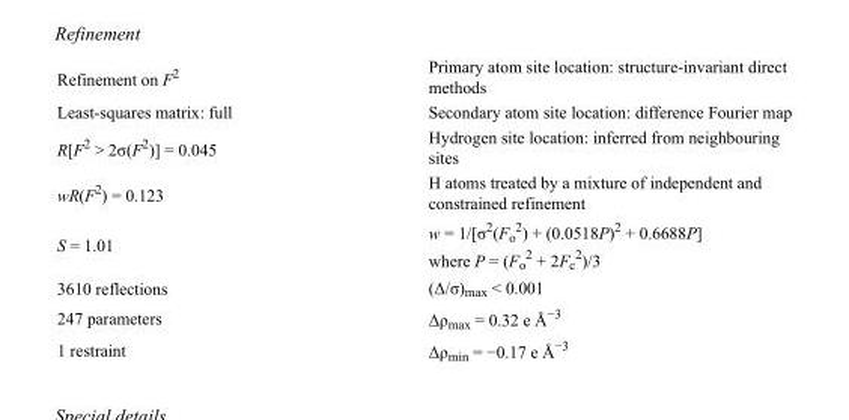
<table><tbody><tr><td>Refinement on F<sup>2</sup></td><td>Primary atom site location: structure-invariant direct methods</td></tr><tr><td>Least-squares matrix: full</td><td>Secondary atom site location: difference Fourier map</td></tr><tr><td>R[F<sup>2</sup> &gt; 2σ(F<sup>2</sup>)] = 0.045</td><td>Hydrogen site location: inferred from neighbouring sites</td></tr><tr><td>wR(F<sup>2</sup>) = 0.123</td><td>H atoms treated by a mixture of independent and constrained refinement</td></tr><tr><td>S = 1.01</td><td>w = 1/[σ<sup>2</sup>(F<sub>o</sub> <sup>2</sup>) + (0.0518P)<sup>2</sup> + 0.6688P] where P = (F<sub>o</sub> <sup>2</sup> + 2F<sub>c</sub> <sup>2</sup>)/3</td></tr><tr><td>3610 reflections</td><td>(Δ/σ)<sub>max</sub> &lt; 0.001</td></tr><tr><td>247 parameters</td><td>Δρ<sub>max</sub> = 0.32 e Å<sup>−3</sup></td></tr><tr><td>1 restraint</td><td>Δρ<sub>min</sub> = −0.17 e Å<sup>−3</sup></td></tr></tbody></table>